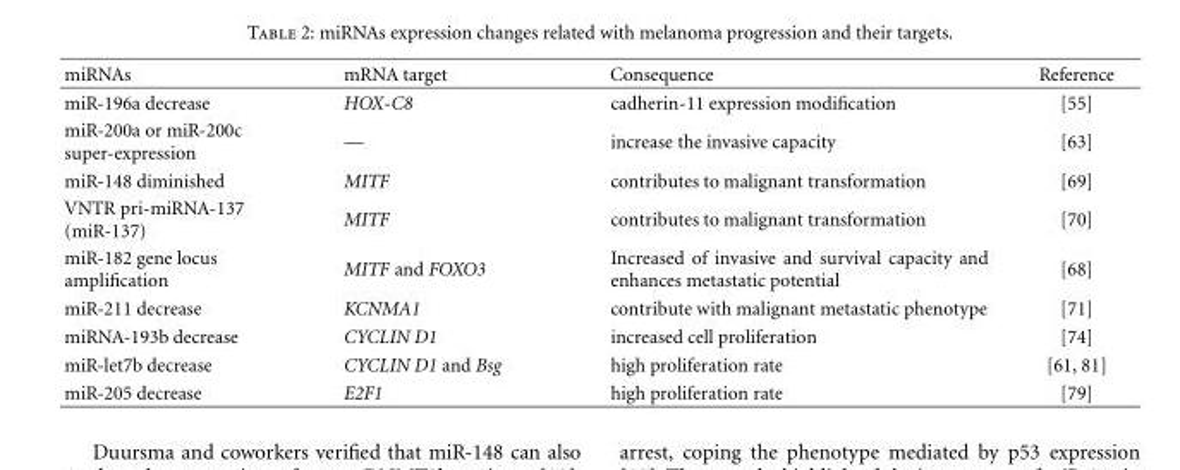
<table><thead><tr><td>miRNAs</td><td>mRNA target</td><td>Consequence</td><td>Reference</td></tr></thead><tbody><tr><td>miR-196a decrease</td><td>HOX-C8</td><td>cadherin-11 expression modification</td><td>[55]</td></tr><tr><td>miR-200a or miR-200c super-expression</td><td>—</td><td>increase the invasive capacity</td><td>[63]</td></tr><tr><td>miR-148 diminished</td><td>MITF</td><td>contributes to malignant transformation</td><td>[69]</td></tr><tr><td>VNTR pri-miRNA-137 (miR-137)</td><td>MITF</td><td>contributes to malignant transformation</td><td>[70]</td></tr><tr><td>miR-182 gene locus amplification</td><td>MITF and FOXO3</td><td>Increased of invasive and survival capacity and enhances metastatic potential</td><td>[68]</td></tr><tr><td>miR-211 decrease</td><td>KCNMA1</td><td>contribute with malignant metastatic phenotype</td><td>[71]</td></tr><tr><td>miRNA-193b decrease</td><td>CYCLIN D1</td><td>increased cell proliferation</td><td>[74]</td></tr><tr><td>miR-let7b decrease</td><td>CYCLIN D1 and Bsg</td><td>high proliferation rate</td><td>[61, 81]</td></tr><tr><td>miR-205 decrease</td><td>E2F1</td><td>high proliferation rate</td><td>[79]</td></tr></tbody></table>